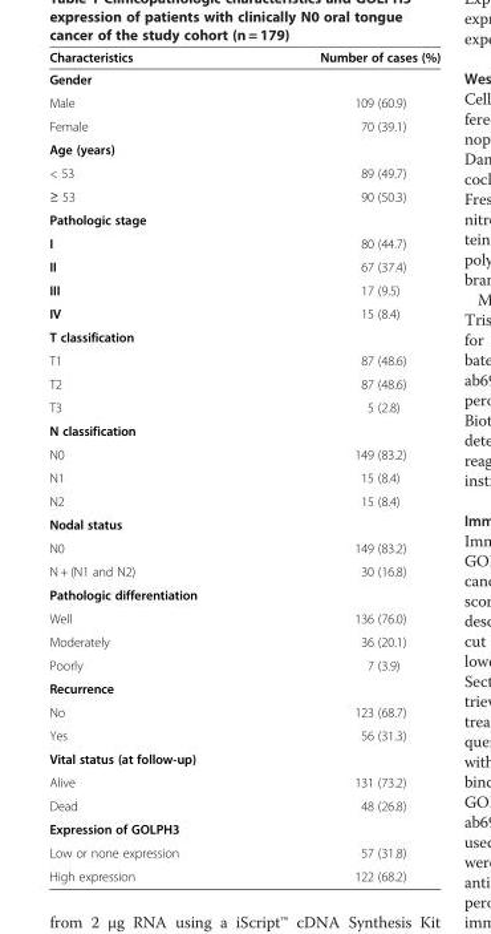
<table><thead><tr><td>Characteristics</td><td>Number of cases (%)</td></tr></thead><tbody><tr><td colspan="2">Gender</td></tr><tr><td>Male</td><td>109 (60.9)</td></tr><tr><td>Female</td><td>70 (39.1)</td></tr><tr><td colspan="2">Age (years)</td></tr><tr><td>&lt; 53</td><td>89 (49.7)</td></tr><tr><td>≥ 53</td><td>90 (50.3)</td></tr><tr><td colspan="2">Pathologic stage</td></tr><tr><td>I</td><td>80 (44.7)</td></tr><tr><td>II</td><td>67 (37.4)</td></tr><tr><td>III</td><td>17 (9.5)</td></tr><tr><td>IV</td><td>15 (8.4)</td></tr><tr><td colspan="2">T classification</td></tr><tr><td>T1</td><td>87 (48.6)</td></tr><tr><td>T2</td><td>87 (48.6)</td></tr><tr><td>T3</td><td>5 (2.8)</td></tr><tr><td colspan="2">N classification</td></tr><tr><td>N0</td><td>149 (83.2)</td></tr><tr><td>N1</td><td>15 (8.4)</td></tr><tr><td>N2</td><td>15 (8.4)</td></tr><tr><td colspan="2">Nodal status</td></tr><tr><td>N0</td><td>149 (83.2)</td></tr><tr><td>N + (N1 and N2)</td><td>30 (16.8)</td></tr><tr><td colspan="2">Pathologic differentiation</td></tr><tr><td>Well</td><td>136 (76.0)</td></tr><tr><td>Moderately</td><td>36 (20.1)</td></tr><tr><td>Poorly</td><td>7 (3.9)</td></tr><tr><td colspan="2">Recurrence</td></tr><tr><td>No</td><td>123 (68.7)</td></tr><tr><td>Yes</td><td>56 (31.3)</td></tr><tr><td colspan="2">Vital status (at follow-up)</td></tr><tr><td>Alive</td><td>131 (73.2)</td></tr><tr><td>Dead</td><td>48 (26.8)</td></tr><tr><td colspan="2">Expression of GOLPH3</td></tr><tr><td>Low or none expression</td><td>57 (31.8)</td></tr><tr><td>High expression</td><td>122 (68.2)</td></tr></tbody></table>